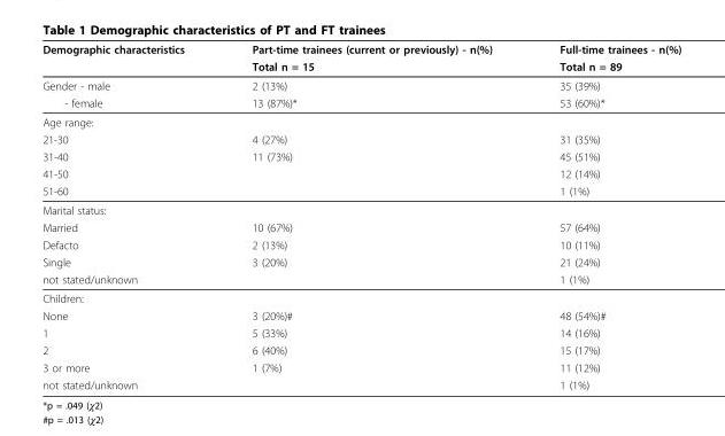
<table><thead><tr><td rowspan="2">Demographic characteristics</td><td rowspan="2">Part-time trainees (current or previously) - n(%) Total n = 15</td><td rowspan="2">Full-time trainees - n(%) Total n = 89</td></tr><tr></tr></thead><tbody><tr><td>Gender - male</td><td>2 (13%)</td><td>35 (39%)</td></tr><tr><td>- female</td><td>13 (87%)*</td><td>53 (60%)*</td></tr><tr><td colspan="3">Age range:</td></tr><tr><td>21-30</td><td>4 (27%)</td><td>31 (35%)</td></tr><tr><td>31-40</td><td>11 (73%)</td><td>45 (51%)</td></tr><tr><td>41-50</td><td></td><td>12 (14%)</td></tr><tr><td>51-60</td><td></td><td>1 (1%)</td></tr><tr><td colspan="3">Marital status:</td></tr><tr><td>Married</td><td>10 (67%)</td><td>57 (64%)</td></tr><tr><td>Defacto</td><td>2 (13%)</td><td>10 (11%)</td></tr><tr><td>Single</td><td>3 (20%)</td><td>21 (24%)</td></tr><tr><td>not stated/unknown</td><td></td><td>1 (1%)</td></tr><tr><td colspan="3">Children:</td></tr><tr><td>None</td><td>3 (20%)#</td><td>48 (54%)#</td></tr><tr><td>1</td><td>5 (33%)</td><td>14 (16%)</td></tr><tr><td>2</td><td>6 (40%)</td><td>15 (17%)</td></tr><tr><td>3 or more</td><td>1 (7%)</td><td>11 (12%)</td></tr><tr><td>not stated/unknown</td><td></td><td>1 (1%)</td></tr></tbody></table>